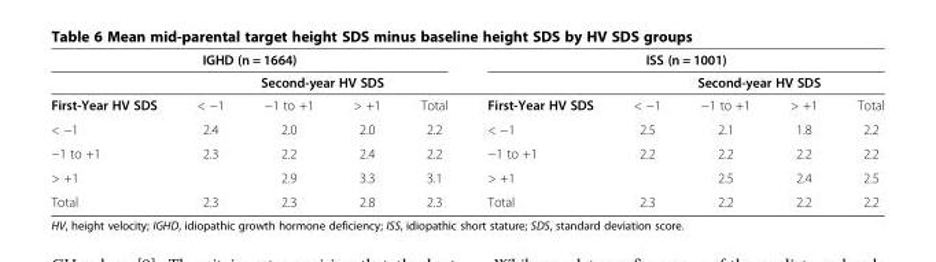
<table><thead><tr><td colspan="5">IGHD (n = 1664)</td><td colspan="5">ISS (n = 1001)</td></tr><tr><td rowspan="2">First-Year HV SDS</td><td colspan="4">Second-year HV SDS</td><td rowspan="2">First-Year HV SDS</td><td colspan="4">Second-year HV SDS</td></tr><tr><td>&lt; −1</td><td>−1 to +1</td><td>&gt; +1</td><td>Total</td><td>&lt; −1</td><td>−1 to +1</td><td>&gt; +1</td><td>Total</td></tr></thead><tbody><tr><td>&lt; −1</td><td>2.4</td><td>2.0</td><td>2.0</td><td>2.2</td><td>&lt; −1</td><td>2.5</td><td>2.1</td><td>1.8</td><td>2.2</td></tr><tr><td>−1 to +1</td><td>2.3</td><td>2.2</td><td>2.4</td><td>2.2</td><td>−1 to +1</td><td>2.2</td><td>2.2</td><td>2.2</td><td>2.2</td></tr><tr><td>&gt; +1</td><td></td><td>2.9</td><td>3.3</td><td>3.1</td><td>&gt; +1</td><td></td><td>2.5</td><td>2.4</td><td>2.5</td></tr><tr><td>Total</td><td>2.3</td><td>2.3</td><td>2.8</td><td>2.3</td><td>Total</td><td>2.3</td><td>2.2</td><td>2.2</td><td>2.2</td></tr></tbody></table>